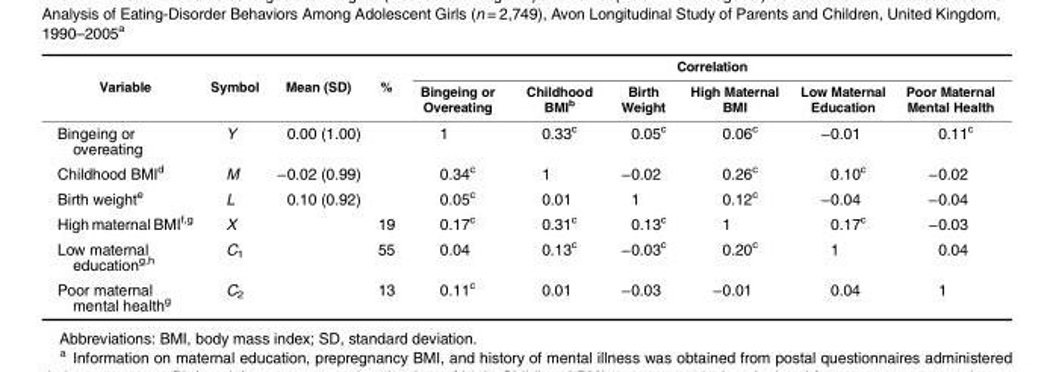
<table><thead><tr><td rowspan="2">Variable</td><td rowspan="2">Symbol</td><td rowspan="2">Mean (SD)</td><td rowspan="2">%</td><td colspan="6">Correlation</td></tr><tr><td>Bingeing or Overeating</td><td>Childhood BMI<sup>b</sup></td><td>Birth Weight</td><td>High Maternal BMI</td><td>Low Maternal Education</td><td>Poor Maternal Mental Health</td></tr></thead><tbody><tr><td>Bingeing or overeating</td><td>Y</td><td>0.00 (1.00)</td><td></td><td>1</td><td>0.33<sup>c</sup></td><td>0.05<sup>c</sup></td><td>0.06<sup>c</sup></td><td>−0.01</td><td>0.11<sup>c</sup></td></tr><tr><td>Childhood BMI<sup>d</sup></td><td>M</td><td>−0.02 (0.99)</td><td></td><td>0.34<sup>c</sup></td><td>1</td><td>−0.02</td><td>0.26<sup>c</sup></td><td>0.10<sup>c</sup></td><td>−0.02</td></tr><tr><td>Birth weight<sup>e</sup></td><td>L</td><td>0.10 (0.92)</td><td></td><td>0.05<sup>c</sup></td><td>0.01</td><td>1</td><td>0.12<sup>c</sup></td><td>−0.04</td><td>−0.04</td></tr><tr><td>High maternal BMI<sup>f,g</sup></td><td>X</td><td></td><td>19</td><td>0.17<sup>c</sup></td><td>0.31<sup>c</sup></td><td>0.13<sup>c</sup></td><td>1</td><td>0.17<sup>c</sup></td><td>−0.03</td></tr><tr><td>Low maternal education<sup>g,h</sup></td><td>C<sub>1</sub></td><td></td><td>55</td><td>0.04</td><td>0.13<sup>c</sup></td><td>−0.03<sup>c</sup></td><td>0.20<sup>c</sup></td><td>1</td><td>0.04</td></tr><tr><td>Poor maternal mental health<sup>g</sup></td><td>C<sub>2</sub></td><td></td><td>13</td><td>0.11<sup>c</sup></td><td>0.01</td><td>−0.03</td><td>−0.01</td><td>0.04</td><td>1</td></tr></tbody></table>